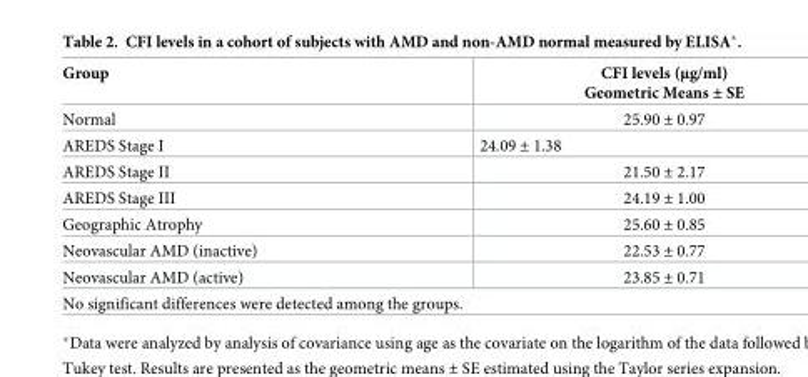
<table><thead><tr><td>Group</td><td>CFI levels (μg/ml) Geometric Means ± SE</td></tr></thead><tbody><tr><td>Normal</td><td>25.90 ± 0.97</td></tr><tr><td>AREDS Stage I</td><td>24.09 ± 1.38</td></tr><tr><td>AREDS Stage II</td><td>21.50 ± 2.17</td></tr><tr><td>AREDS Stage III</td><td>24.19 ± 1.00</td></tr><tr><td>Geographic Atrophy</td><td>25.60 ± 0.85</td></tr><tr><td>Neovascular AMD (inactive)</td><td>22.53 ± 0.77</td></tr><tr><td>Neovascular AMD (active)</td><td>23.85 ± 0.71</td></tr><tr><td colspan="2">No significant differences were detected among the groups.</td></tr></tbody></table>